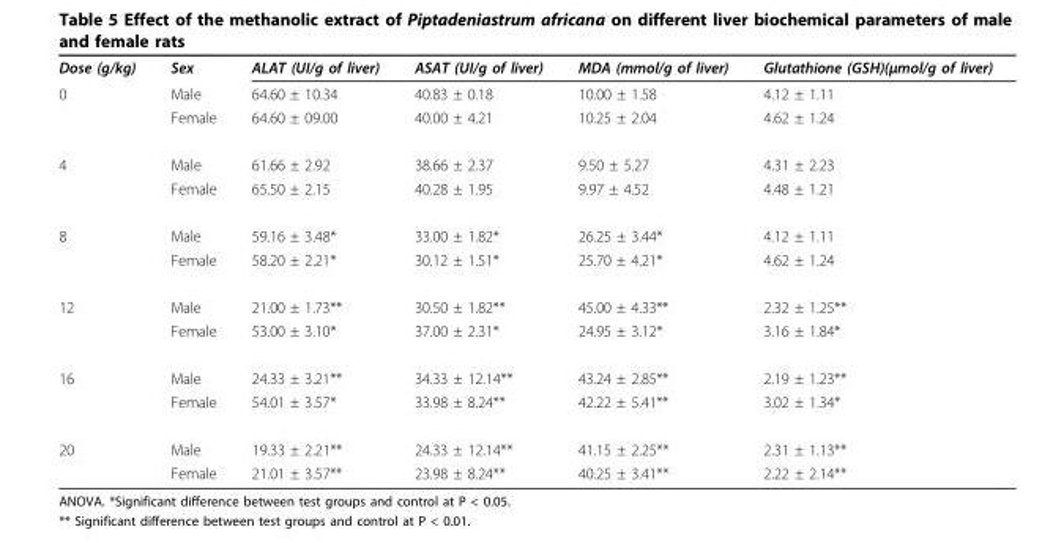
<table><tbody><tr><td>Dose (g/kg)</td><td>Sex</td><td>ALAT (UI/g of liver)</td><td>ASAT (UI/g of liver)</td><td>MDA (mmol/g of liver)</td><td>Glutathione (GSH)(μmol/g of liver)</td></tr><tr><td rowspan="2">0</td><td>Male</td><td>64.60 ± 10.34</td><td>40.83 ± 0.18</td><td>10.00 ± 1.58</td><td>4.12 ± 1.11</td></tr><tr><td>Female</td><td>64.60 ± 09.00</td><td>40.00 ± 4.21</td><td>10.25 ± 2.04</td><td>4.62 ± 1.24</td></tr><tr><td rowspan="2">4</td><td>Male</td><td>61.66 ± 2.92</td><td>38.66 ± 2.37</td><td>9.50 ± 5.27</td><td>4.31 ± 2.23</td></tr><tr><td>Female</td><td>65.50 ± 2.15</td><td>40.28 ± 1.95</td><td>9.97 ± 4.52</td><td>4.48 ± 1.21</td></tr><tr><td rowspan="2">8</td><td>Male</td><td>59.16 ± 3.48*</td><td>33.00 ± 1.82*</td><td>26.25 ± 3.44*</td><td>4.12 ± 1.11</td></tr><tr><td>Female</td><td>58.20 ± 2.21*</td><td>30.12 ± 1.51*</td><td>25.70 ± 4.21*</td><td>4.62 ± 1.24</td></tr><tr><td rowspan="2">12</td><td>Male</td><td>21.00 ± 1.73**</td><td>30.50 ± 1.82**</td><td>45.00 ± 4.33**</td><td>2.32 ± 1.25**</td></tr><tr><td>Female</td><td>53.00 ± 3.10*</td><td>37.00 ± 2.31*</td><td>24.95 ± 3.12*</td><td>3.16 ± 1.84*</td></tr><tr><td rowspan="2">16</td><td>Male</td><td>24.33 ± 3.21**</td><td>34.33 ± 12.14**</td><td>43.24 ± 2.85**</td><td>2.19 ± 1.23**</td></tr><tr><td>Female</td><td>54.01 ± 3.57*</td><td>33.98 ± 8.24**</td><td>42.22 ± 5.41**</td><td>3.02 ± 1.34*</td></tr><tr><td rowspan="2">20</td><td>Male</td><td>19.33 ± 2.21**</td><td>24.33 ± 12.14**</td><td>41.15 ± 2.25**</td><td>2.31 ± 1.13**</td></tr><tr><td>Female</td><td>21.01 ± 3.57**</td><td>23.98 ± 8.24**</td><td>40.25 ± 3.41**</td><td>2.22 ± 2.14**</td></tr></tbody></table>